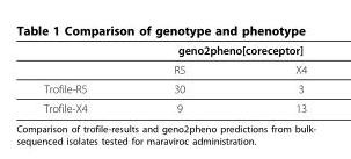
<table><thead><tr><td rowspan="2"></td><td colspan="2">geno2pheno[coreceptor]</td></tr><tr><td>R5</td><td>X4</td></tr></thead><tbody><tr><td>Trofile-R5</td><td>30</td><td>3</td></tr><tr><td>Trofile-X4</td><td>9</td><td>13</td></tr></tbody></table>